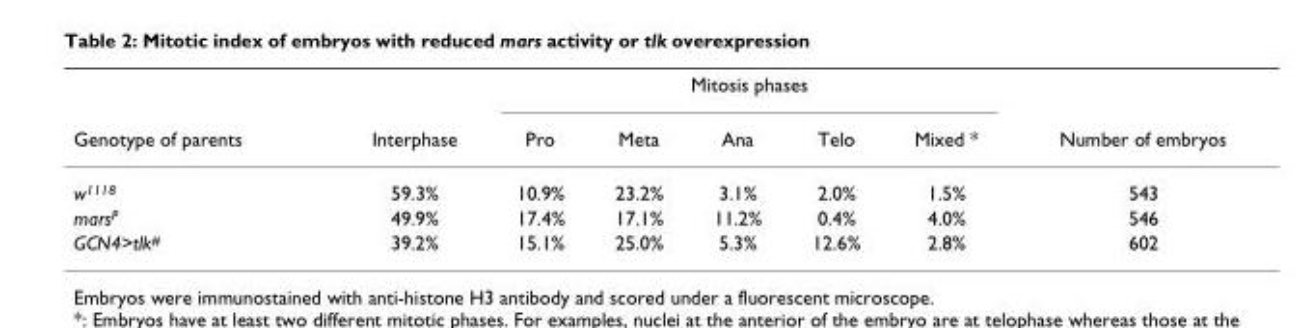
<table><thead><tr><td rowspan="2">Genotype of parents</td><td rowspan="2">Interphase</td><td colspan="5">Mitosis phases</td><td rowspan="2">Number of embryos</td></tr><tr><td>Pro</td><td>Meta</td><td>Ana</td><td>Telo</td><td>Mixed *</td></tr></thead><tbody><tr><td>w<sup>1118</sup></td><td>59.3%</td><td>10.9%</td><td>23.2%</td><td>3.1%</td><td>2.0%</td><td>1.5%</td><td>543</td></tr><tr><td>mars<sup>P</sup></td><td>49.9%</td><td>17.4%</td><td>17.1%</td><td>11.2%</td><td>0.4%</td><td>4.0%</td><td>546</td></tr><tr><td>GCN4&gt;tlk<sup>#</sup></td><td>39.2%</td><td>15.1%</td><td>25.0%</td><td>5.3%</td><td>12.6%</td><td>2.8%</td><td>602</td></tr></tbody></table>